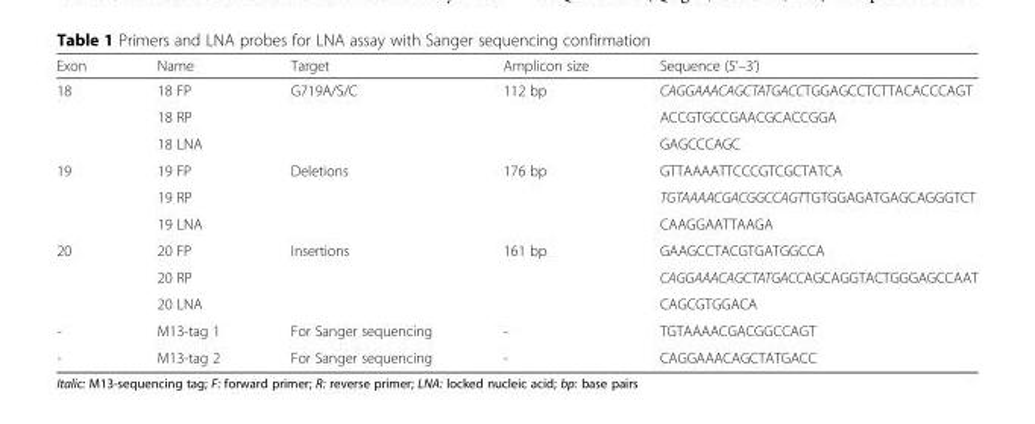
<table><thead><tr><td>Exon</td><td>Name</td><td>Target</td><td>Amplicon size</td><td>Sequence (5’–3’)</td></tr></thead><tbody><tr><td rowspan="3">18</td><td>18 FP</td><td>G719A/S/C</td><td>112 bp</td><td>CAGGAAACAGCTATGACCTGGAGCCTCTTACACCCAGT</td></tr><tr><td>18 RP</td><td></td><td></td><td>ACCGTGCCGAACGCACCGGA</td></tr><tr><td>18 LNA</td><td></td><td></td><td>GAGCCCAGC</td></tr><tr><td rowspan="3">19</td><td>19 FP</td><td>Deletions</td><td>176 bp</td><td>GTTAAAATTCCCGTCGCTATCA</td></tr><tr><td>19 RP</td><td></td><td></td><td>TGTAAAACGACGGCCAGTTGTGGAGATGAGCAGGGTCT</td></tr><tr><td>19 LNA</td><td></td><td></td><td>CAAGGAATTAAGA</td></tr><tr><td rowspan="3">20</td><td>20 FP</td><td>Insertions</td><td>161 bp</td><td>GAAGCCTACGTGATGGCCA</td></tr><tr><td>20 RP</td><td></td><td></td><td>CAGGAAACAGCTATGACCAGCAGGTACTGGGAGCCAAT</td></tr><tr><td>20 LNA</td><td></td><td></td><td>CAGCGTGGACA</td></tr><tr><td>-</td><td>M13-tag 1</td><td>For Sanger sequencing</td><td>-</td><td>TGTAAAACGACGGCCAGT</td></tr><tr><td>-</td><td>M13-tag 2</td><td>For Sanger sequencing</td><td>-</td><td>CAGGAAACAGCTATGACC</td></tr></tbody></table>